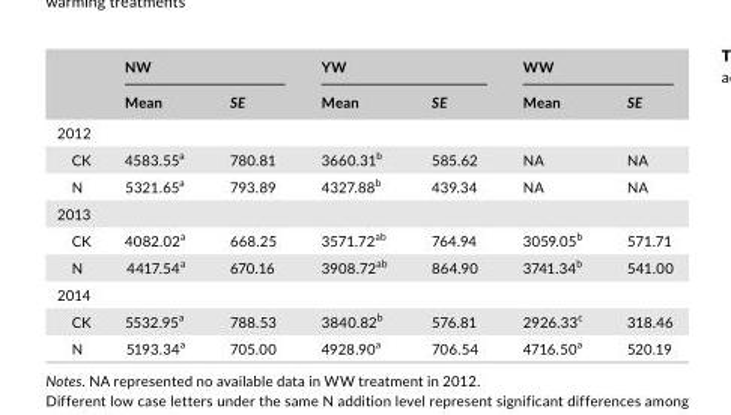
<table><thead><tr><td rowspan="2"></td><td colspan="2">NW</td><td colspan="2">YW</td><td colspan="2">WW</td></tr><tr><td>Mean</td><td>SE</td><td>Mean</td><td>SE</td><td>Mean</td><td>SE</td></tr></thead><tbody><tr><td colspan="7">2012</td></tr><tr><td>CK</td><td>4583.55<sup>a</sup></td><td>780.81</td><td>3660.31<sup>b</sup></td><td>585.62</td><td>NA</td><td>NA</td></tr><tr><td>N</td><td>5321.65<sup>a</sup></td><td>793.89</td><td>4327.88<sup>b</sup></td><td>439.34</td><td>NA</td><td>NA</td></tr><tr><td colspan="7">2013</td></tr><tr><td>CK</td><td>4082.02<sup>a</sup></td><td>668.25</td><td>3571.72<sup>ab</sup></td><td>764.94</td><td>3059.05<sup>b</sup></td><td>571.71</td></tr><tr><td>N</td><td>4417.54<sup>a</sup></td><td>670.16</td><td>3908.72<sup>ab</sup></td><td>864.90</td><td>3741.34<sup>b</sup></td><td>541.00</td></tr><tr><td colspan="7">2014</td></tr><tr><td>CK</td><td>5532.95<sup>a</sup></td><td>788.53</td><td>3840.82<sup>b</sup></td><td>576.81</td><td>2926.33<sup>c</sup></td><td>318.46</td></tr><tr><td>N</td><td>5193.34<sup>a</sup></td><td>705.00</td><td>4928.90<sup>a</sup></td><td>706.54</td><td>4716.50<sup>a</sup></td><td>520.19</td></tr></tbody></table>